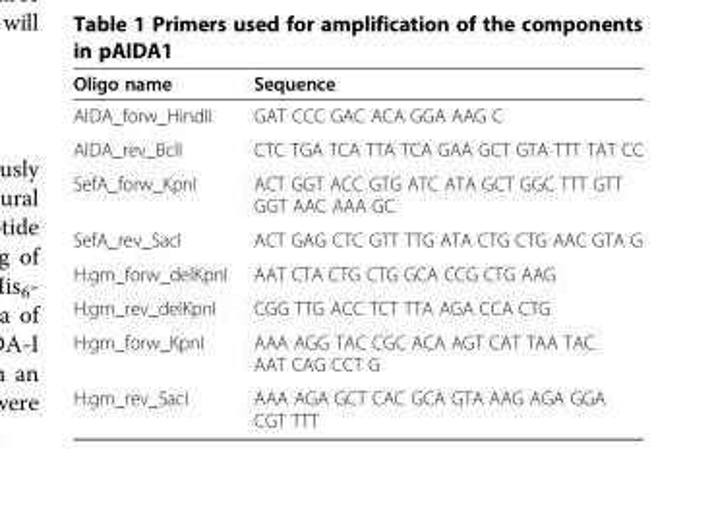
<table><thead><tr><td>Oligo name</td><td>Sequence</td></tr></thead><tbody><tr><td>AIDA_forw_HindII</td><td>GAT CCC GAC ACA GGA AAG C</td></tr><tr><td>AIDA_rev_BclI</td><td>CTC TGA TCA TTA TCA GAA GCT GTA TTT TAT CC</td></tr><tr><td>SefA_forw_KpnI</td><td>ACT GGT ACC GTG ATC ATA GCT GGC TTT GTT GGT AAC AAA GC</td></tr><tr><td>SefA_rev_SacI</td><td>ACT GAG CTC GTT TTG ATA CTG CTG AAC GTA G</td></tr><tr><td>H:gm_forw_delKpnI</td><td>AAT CTA CTG CTG GCA CCG CTG AAG</td></tr><tr><td>H:gm_rev_delKpnI</td><td>CGG TTG ACC TCT TTA AGA CCA CTG</td></tr><tr><td>H:gm_forw_KpnI</td><td>AAA AGG TAC CGC ACA AGT CAT TAA TAC AAT CAG CCT G</td></tr><tr><td>H:gm_rev_SacI</td><td>AAA AGA GCT CAC GCA GTA AAG AGA GGA CGT TTT</td></tr></tbody></table>